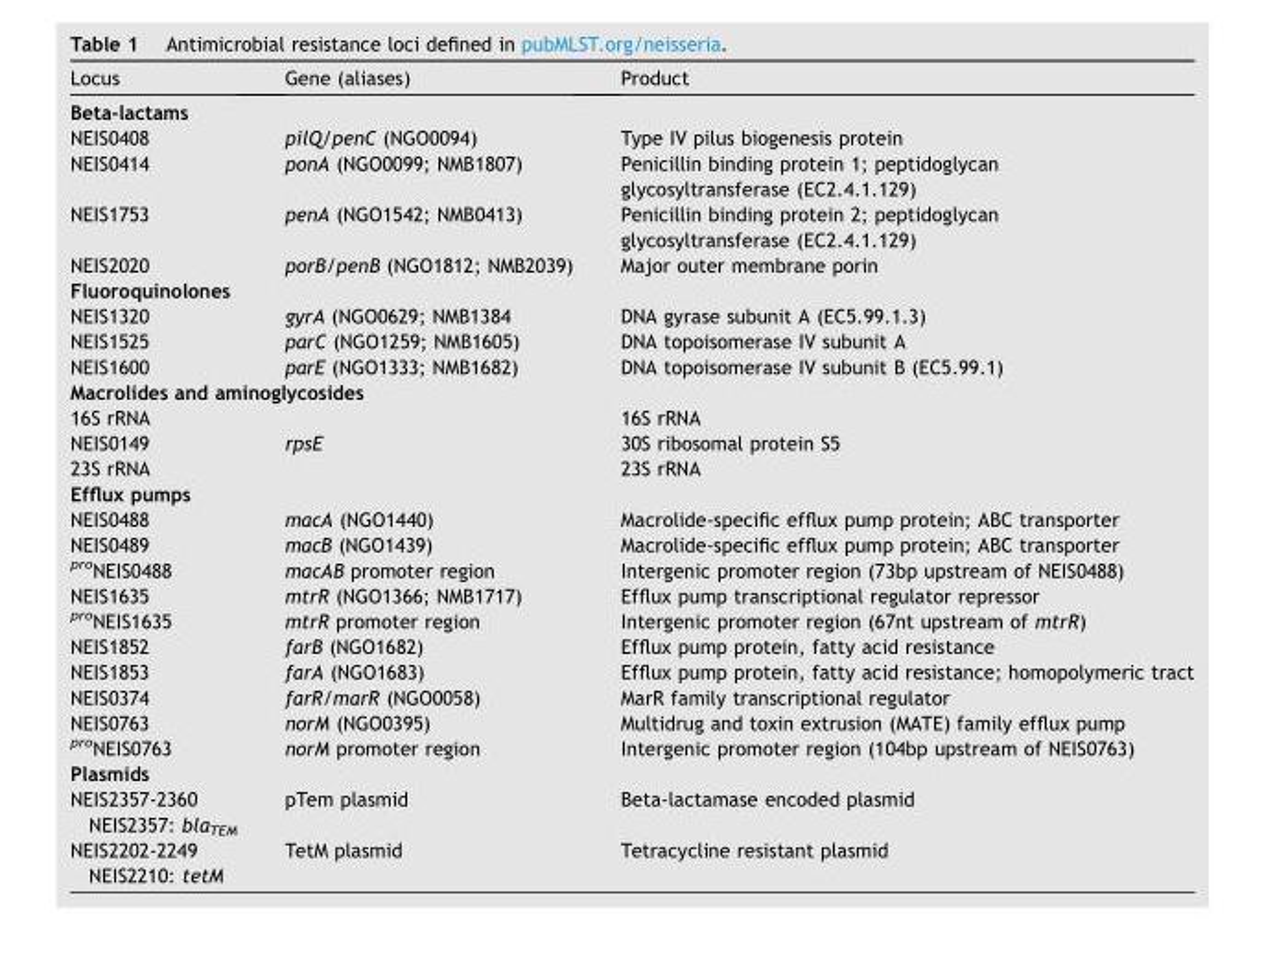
<table><thead><tr><td>Locus</td><td>Gene (aliases)</td><td>Product</td></tr></thead><tbody><tr><td colspan="3">Beta-lactams</td></tr><tr><td>NEIS0408</td><td>pilQ/penC (NGO0094)</td><td>Type IV pilus biogenesis protein</td></tr><tr><td>NEIS0414</td><td>ponA (NGO0099; NMB1807)</td><td>Penicillin binding protein 1; peptidoglycan glycosyltransferase (EC2.4.1.129)</td></tr><tr><td>NEIS1753</td><td>penA (NGO1542; NMB0413)</td><td>Penicillin binding protein 2; peptidoglycan glycosyltransferase (EC2.4.1.129)</td></tr><tr><td>NEIS2020</td><td>porB/penB (NGO1812; NMB2039)</td><td>Major outer membrane porin</td></tr><tr><td colspan="3">Fluoroquinolones</td></tr><tr><td>NEIS1320</td><td>gyrA (NGO0629; NMB1384</td><td>DNA gyrase subunit A (EC5.99.1.3)</td></tr><tr><td>NEIS1525</td><td>parC (NGO1259; NMB1605)</td><td>DNA topoisomerase IV subunit A</td></tr><tr><td>NEIS1600</td><td>parE (NGO1333; NMB1682)</td><td>DNA topoisomerase IV subunit B (EC5.99.1)</td></tr><tr><td colspan="3">Macrolides and aminoglycosides</td></tr><tr><td>16S rRNA</td><td></td><td>16S rRNA</td></tr><tr><td>NEIS0149</td><td>rpsE</td><td>30S ribosomal protein S5</td></tr><tr><td>23S rRNA</td><td></td><td>23S rRNA</td></tr><tr><td colspan="3">Efflux pumps</td></tr><tr><td>NEIS0488</td><td>macA (NGO1440)</td><td>Macrolide-specific efflux pump protein; ABC transporter</td></tr><tr><td>NEIS0489</td><td>macB (NGO1439)</td><td>Macrolide-specific efflux pump protein; ABC transporter</td></tr><tr><td><sup>pro</sup>NEIS0488</td><td>macAB promoter region</td><td>Intergenic promoter region (73bp upstream of NEIS0488)</td></tr><tr><td>NEIS1635</td><td>mtrR (NGO1366; NMB1717)</td><td>Efflux pump transcriptional regulator repressor</td></tr><tr><td><sup>pro</sup>NEIS1635</td><td>mtrR promoter region</td><td>Intergenic promoter region (67nt upstream of mtrR)</td></tr><tr><td>NEIS1852</td><td>farB (NGO1682)</td><td>Efflux pump protein, fatty acid resistance</td></tr><tr><td>NEIS1853</td><td>farA (NGO1683)</td><td>Efflux pump protein, fatty acid resistance; homopolymeric tract</td></tr><tr><td>NEIS0374</td><td>farR/marR (NGO0058)</td><td>MarR family transcriptional regulator</td></tr><tr><td>NEIS0763</td><td>norM (NGO0395)</td><td>Multidrug and toxin extrusion (MATE) family efflux pump</td></tr><tr><td><sup>pro</sup>NEIS0763</td><td>norM promoter region</td><td>Intergenic promoter region (104bp upstream of NEIS0763)</td></tr><tr><td colspan="3">Plasmids</td></tr><tr><td>NEIS2357-2360 NEIS2357: bla<sub>TEM</sub></td><td>pTem plasmid</td><td>Beta-lactamase encoded plasmid</td></tr><tr><td>NEIS2202-2249 NEIS2210: tetM</td><td>TetM plasmid</td><td>Tetracycline resistant plasmid</td></tr></tbody></table>